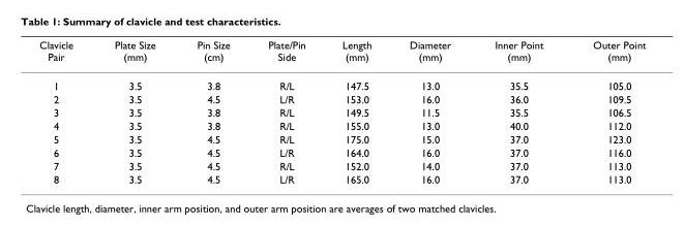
<table><thead><tr><td>Clavicle Pair</td><td>Plate Size (mm)</td><td>Pin Size (cm)</td><td>Plate/Pin Side</td><td>Length (mm)</td><td>Diameter (mm)</td><td>Inner Point (mm)</td><td>Outer Point (mm)</td></tr></thead><tbody><tr><td>1</td><td>3.5</td><td>3.8</td><td>R/L</td><td>147.5</td><td>13.0</td><td>35.5</td><td>105.0</td></tr><tr><td>2</td><td>3.5</td><td>4.5</td><td>L/R</td><td>153.0</td><td>16.0</td><td>36.0</td><td>109.5</td></tr><tr><td>3</td><td>3.5</td><td>3.8</td><td>R/L</td><td>149.5</td><td>11.5</td><td>35.5</td><td>106.5</td></tr><tr><td>4</td><td>3.5</td><td>3.8</td><td>R/L</td><td>155.0</td><td>13.0</td><td>40.0</td><td>112.0</td></tr><tr><td>5</td><td>3.5</td><td>4.5</td><td>R/L</td><td>175.0</td><td>15.0</td><td>37.0</td><td>123.0</td></tr><tr><td>6</td><td>3.5</td><td>4.5</td><td>L/R</td><td>164.0</td><td>16.0</td><td>37.0</td><td>116.0</td></tr><tr><td>7</td><td>3.5</td><td>4.5</td><td>R/L</td><td>152.0</td><td>14.0</td><td>37.0</td><td>113.0</td></tr><tr><td>8</td><td>3.5</td><td>4.5</td><td>L/R</td><td>165.0</td><td>16.0</td><td>37.0</td><td>113.0</td></tr></tbody></table>